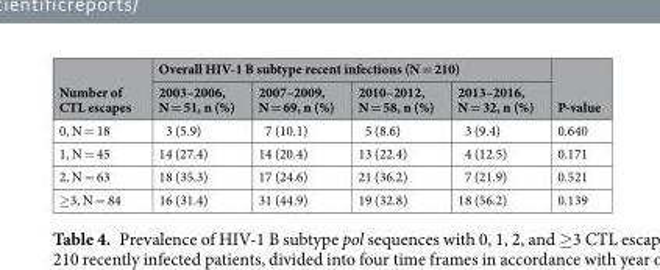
<table><thead><tr><td rowspan="2">Number of CTL escapes</td><td colspan="4">Overall HIV-1 B subtype recent infections (N = 210)</td><td rowspan="2">P-value</td></tr><tr><td>2003–2006, N = 51, n (%)</td><td>2007–2009, N = 69, n (%)</td><td>2010–2012, N = 58, n (%)</td><td>2013–2016, N = 32, n (%)</td></tr></thead><tbody><tr><td>0, N = 18</td><td>3 (5.9)</td><td>7 (10.1)</td><td>5 (8.6)</td><td>3 (9.4)</td><td>0.640</td></tr><tr><td>1, N = 45</td><td>14 (27.4)</td><td>14 (20.4)</td><td>13 (22.4)</td><td>4 (12.5)</td><td>0.171</td></tr><tr><td>2, N = 63</td><td>18 (35.3)</td><td>17 (24.6)</td><td>21 (36.2)</td><td>7 (21.9)</td><td>0.521</td></tr><tr><td>≥3, N = 84</td><td>16 (31.4)</td><td>31 (44.9)</td><td>19 (32.8)</td><td>18 (56.2)</td><td>0.139</td></tr></tbody></table>